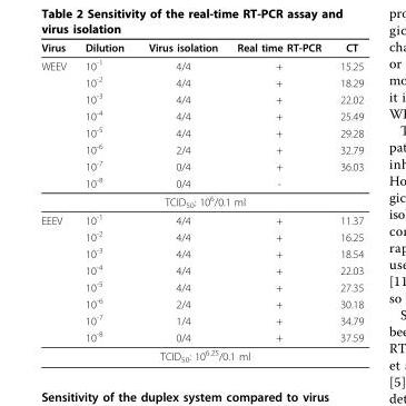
<table><thead><tr><td>Virus</td><td>Dilution</td><td>Virus isolation</td><td>Real time RT-PCR</td><td>CT</td></tr></thead><tbody><tr><td rowspan="8">WEEV</td><td>10<sup>-1</sup></td><td>4/4</td><td>+</td><td>15.25</td></tr><tr><td>10<sup>-2</sup></td><td>4/4</td><td>+</td><td>18.29</td></tr><tr><td>10<sup>-3</sup></td><td>4/4</td><td>+</td><td>22.02</td></tr><tr><td>10<sup>-4</sup></td><td>4/4</td><td>+</td><td>25.49</td></tr><tr><td>10<sup>-5</sup></td><td>4/4</td><td>+</td><td>29.28</td></tr><tr><td>10<sup>-6</sup></td><td>2/4</td><td>+</td><td>32.79</td></tr><tr><td>10<sup>-7</sup></td><td>0/4</td><td>+</td><td>36.03</td></tr><tr><td>10<sup>-8</sup></td><td>0/4</td><td>-</td><td></td></tr><tr><td colspan="5">TCID<sub>50</sub>: 10<sup>6</sup>/0.1 ml</td></tr><tr><td rowspan="8">EEEV</td><td>10<sup>-1</sup></td><td>4/4</td><td>+</td><td>11.37</td></tr><tr><td>10<sup>-2</sup></td><td>4/4</td><td>+</td><td>16.25</td></tr><tr><td>10<sup>-3</sup></td><td>4/4</td><td>+</td><td>18.54</td></tr><tr><td>10<sup>-4</sup></td><td>4/4</td><td>+</td><td>22.03</td></tr><tr><td>10<sup>-5</sup></td><td>4/4</td><td>+</td><td>27.35</td></tr><tr><td>10<sup>-6</sup></td><td>2/4</td><td>+</td><td>30.18</td></tr><tr><td>10<sup>-7</sup></td><td>1/4</td><td>+</td><td>34.79</td></tr><tr><td>10<sup>-8</sup></td><td>0/4</td><td>+</td><td>37.59</td></tr><tr><td colspan="5">TCID<sub>50</sub>: 10<sup>6.25</sup>/0.1 ml</td></tr></tbody></table>